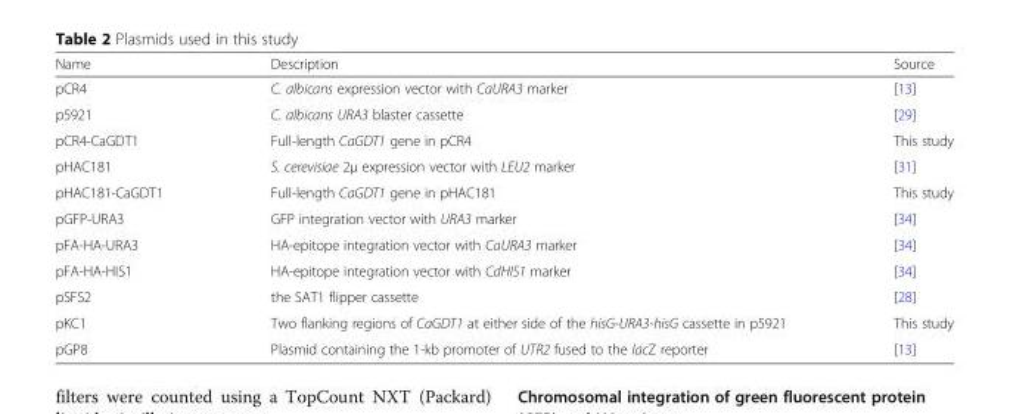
<table><thead><tr><td>Name</td><td>Description</td><td>Source</td></tr></thead><tbody><tr><td>pCR4</td><td>C. albicans expression vector with CaURA3 marker</td><td>[13]</td></tr><tr><td>p5921</td><td>C. albicans URA3 blaster cassette</td><td>[29]</td></tr><tr><td>pCR4-CaGDT1</td><td>Full-length CaGDT1 gene in pCR4</td><td>This study</td></tr><tr><td>pHAC181</td><td>S. cerevisiae 2μ expression vector with LEU2 marker</td><td>[31]</td></tr><tr><td>pHAC181-CaGDT1</td><td>Full-length CaGDT1 gene in pHAC181</td><td>This study</td></tr><tr><td>pGFP-URA3</td><td>GFP integration vector with URA3 marker</td><td>[34]</td></tr><tr><td>pFA-HA-URA3</td><td>HA-epitope integration vector with CaURA3 marker</td><td>[34]</td></tr><tr><td>pFA-HA-HIS1</td><td>HA-epitope integration vector with CdHIS1 marker</td><td>[34]</td></tr><tr><td>pSFS2</td><td>the SAT1 flipper cassette</td><td>[28]</td></tr><tr><td>pKC1</td><td>Two flanking regions of CaGDT1 at either side of the hisG-URA3-hisG cassette in p5921</td><td>This study</td></tr><tr><td>pGP8</td><td>Plasmid containing the 1-kb promoter of UTR2 fused to the lacZ reporter</td><td>[13]</td></tr></tbody></table>